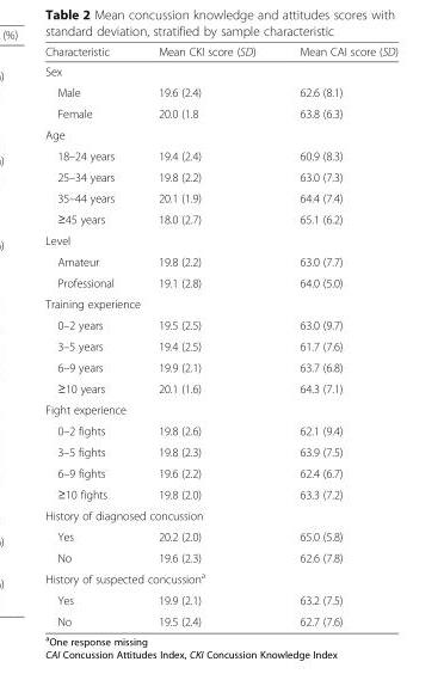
<table><thead><tr><td>Characteristic</td><td>Mean CKI score (SD)</td><td>Mean CAI score (SD)</td></tr></thead><tbody><tr><td colspan="3">Sex</td></tr><tr><td>Male</td><td>19.6 (2.4)</td><td>62.6 (8.1)</td></tr><tr><td>Female</td><td>20.0 (1.8</td><td>63.8 (6.3)</td></tr><tr><td colspan="3">Age</td></tr><tr><td>18–24 years</td><td>19.4 (2.4)</td><td>60.9 (8.3)</td></tr><tr><td>25–34 years</td><td>19.8 (2.2)</td><td>63.0 (7.3)</td></tr><tr><td>35–44 years</td><td>20.1 (1.9)</td><td>64.4 (7.4)</td></tr><tr><td>≥45 years</td><td>18.0 (2.7)</td><td>65.1 (6.2)</td></tr><tr><td colspan="3">Level</td></tr><tr><td>Amateur</td><td>19.8 (2.2)</td><td>63.0 (7.7)</td></tr><tr><td>Professional</td><td>19.1 (2.8)</td><td>64.0 (5.0)</td></tr><tr><td colspan="3">Training experience</td></tr><tr><td>0–2 years</td><td>19.5 (2.5)</td><td>63.0 (9.7)</td></tr><tr><td>3–5 years</td><td>19.4 (2.5)</td><td>61.7 (7.6)</td></tr><tr><td>6–9 years</td><td>19.9 (2.1)</td><td>63.7 (6.8)</td></tr><tr><td>≥10 years</td><td>20.1 (1.6)</td><td>64.3 (7.1)</td></tr><tr><td colspan="3">Fight experience</td></tr><tr><td>0–2 fights</td><td>19.8 (2.6)</td><td>62.1 (9.4)</td></tr><tr><td>3–5 fights</td><td>19.8 (2.3)</td><td>63.9 (7.5)</td></tr><tr><td>6–9 fights</td><td>19.6 (2.2)</td><td>62.4 (6.7)</td></tr><tr><td>≥10 fights</td><td>19.8 (2.0)</td><td>63.3 (7.2)</td></tr><tr><td colspan="3">History of diagnosed concussion</td></tr><tr><td>Yes</td><td>20.2 (2.0)</td><td>65.0 (5.8)</td></tr><tr><td>No</td><td>19.6 (2.3)</td><td>62.6 (7.8)</td></tr><tr><td colspan="3">History of suspected concussion<sup>a</sup></td></tr><tr><td>Yes</td><td>19.9 (2.1)</td><td>63.2 (7.5)</td></tr><tr><td>No</td><td>19.5 (2.4)</td><td>62.7 (7.6)</td></tr></tbody></table>